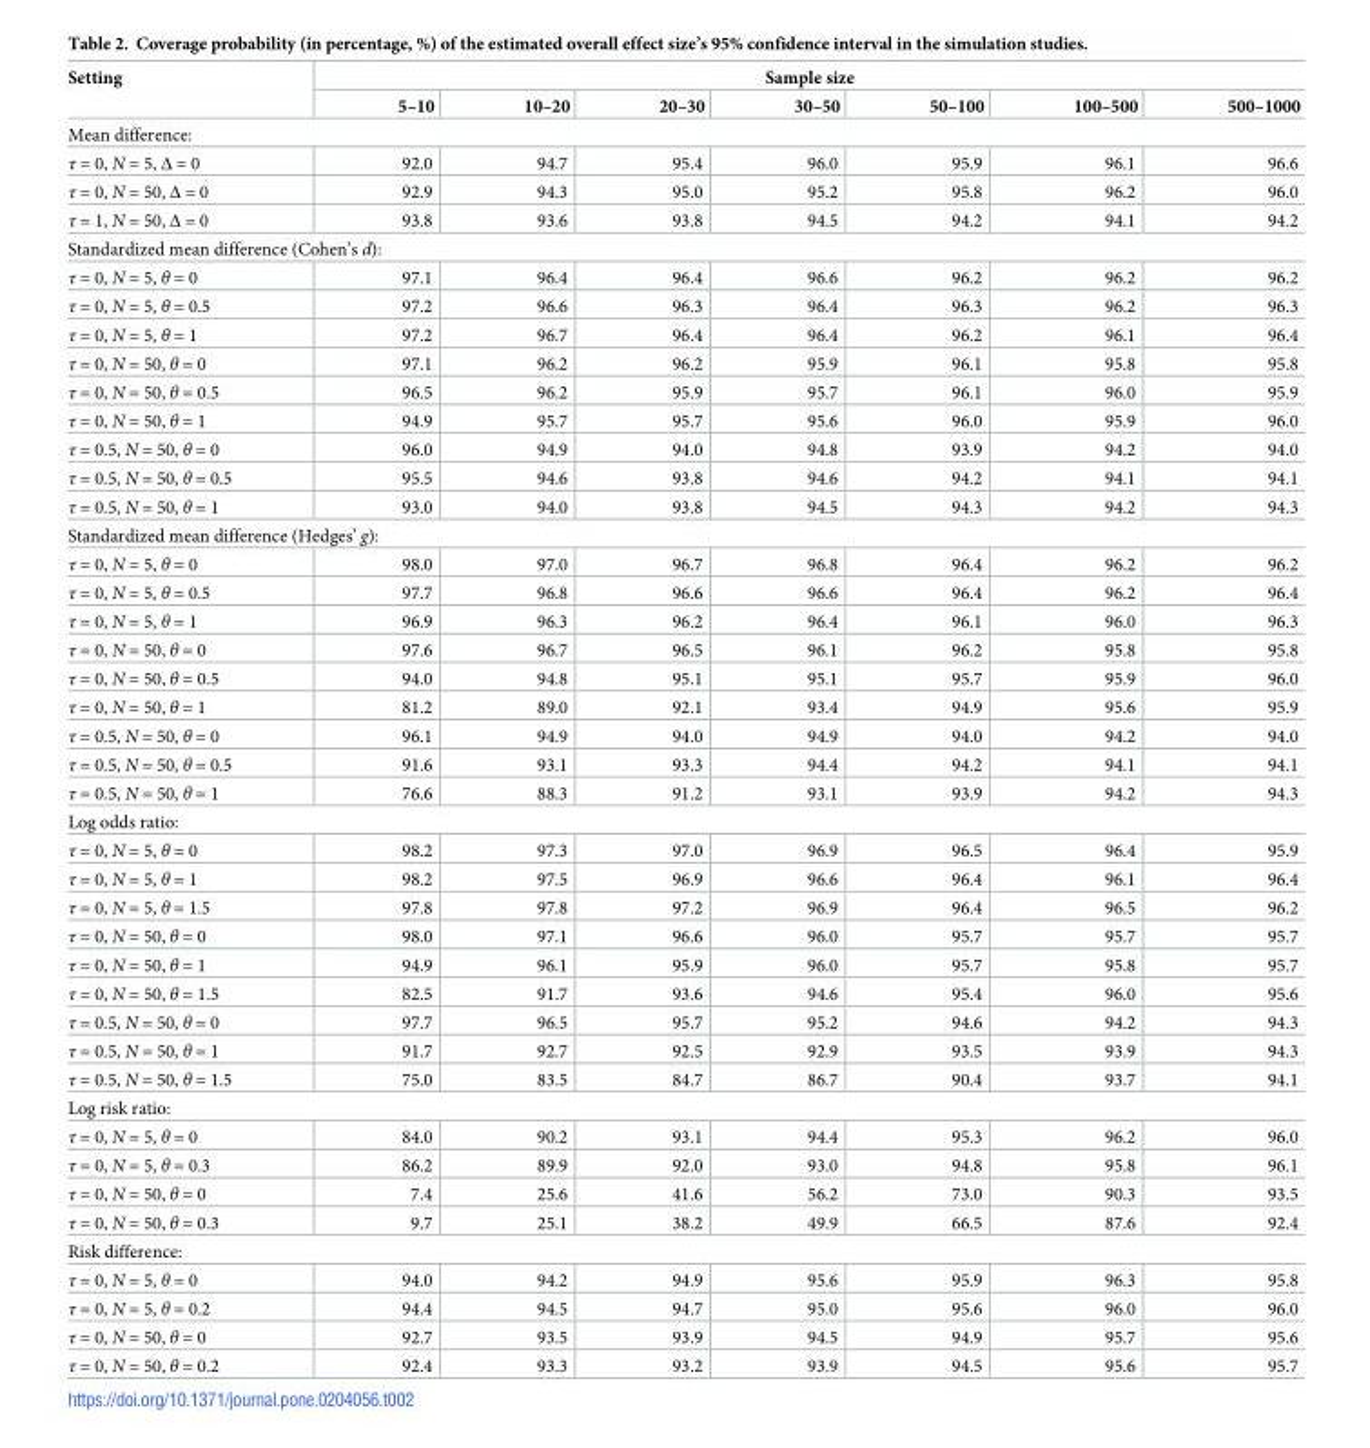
<table><thead><tr><td rowspan="2">Setting</td><td colspan="7">Sample size</td></tr><tr><td>5–10</td><td>10–20</td><td>20–30</td><td>30–50</td><td>50–100</td><td>100–500</td><td>500–1000</td></tr></thead><tbody><tr><td colspan="8">Mean difference:</td></tr><tr><td>τ = 0, N = 5, Δ = 0</td><td>92.0</td><td>94.7</td><td>95.4</td><td>96.0</td><td>95.9</td><td>96.1</td><td>96.6</td></tr><tr><td>τ = 0, N = 50, Δ = 0</td><td>92.9</td><td>94.3</td><td>95.0</td><td>95.2</td><td>95.8</td><td>96.2</td><td>96.0</td></tr><tr><td>τ = 1, N = 50, Δ = 0</td><td>93.8</td><td>93.6</td><td>93.8</td><td>94.5</td><td>94.2</td><td>94.1</td><td>94.2</td></tr><tr><td colspan="8">Standardized mean difference (Cohen’s d):</td></tr><tr><td>τ = 0, N = 5, θ = 0</td><td>97.1</td><td>96.4</td><td>96.4</td><td>96.6</td><td>96.2</td><td>96.2</td><td>96.2</td></tr><tr><td>τ = 0, N = 5, θ = 0.5</td><td>97.2</td><td>96.6</td><td>96.3</td><td>96.4</td><td>96.3</td><td>96.2</td><td>96.3</td></tr><tr><td>τ = 0, N = 5, θ = 1</td><td>97.2</td><td>96.7</td><td>96.4</td><td>96.4</td><td>96.2</td><td>96.1</td><td>96.4</td></tr><tr><td>τ = 0, N = 50, θ = 0</td><td>97.1</td><td>96.2</td><td>96.2</td><td>95.9</td><td>96.1</td><td>95.8</td><td>95.8</td></tr><tr><td>τ = 0, N = 50, θ = 0.5</td><td>96.5</td><td>96.2</td><td>95.9</td><td>95.7</td><td>96.1</td><td>96.0</td><td>95.9</td></tr><tr><td>τ = 0, N = 50, θ = 1</td><td>94.9</td><td>95.7</td><td>95.7</td><td>95.6</td><td>96.0</td><td>95.9</td><td>96.0</td></tr><tr><td>τ = 0.5, N = 50, θ = 0</td><td>96.0</td><td>94.9</td><td>94.0</td><td>94.8</td><td>93.9</td><td>94.2</td><td>94.0</td></tr><tr><td>τ = 0.5, N = 50, θ = 0.5</td><td>95.5</td><td>94.6</td><td>93.8</td><td>94.6</td><td>94.2</td><td>94.1</td><td>94.1</td></tr><tr><td>τ = 0.5, N = 50, θ = 1</td><td>93.0</td><td>94.0</td><td>93.8</td><td>94.5</td><td>94.3</td><td>94.2</td><td>94.3</td></tr><tr><td colspan="8">Standardized mean difference (Hedges’ g):</td></tr><tr><td>τ = 0, N = 5, θ = 0</td><td>98.0</td><td>97.0</td><td>96.7</td><td>96.8</td><td>96.4</td><td>96.2</td><td>96.2</td></tr><tr><td>τ = 0, N = 5, θ = 0.5</td><td>97.7</td><td>96.8</td><td>96.6</td><td>96.6</td><td>96.4</td><td>96.2</td><td>96.4</td></tr><tr><td>τ = 0, N = 5, θ = 1</td><td>96.9</td><td>96.3</td><td>96.2</td><td>96.4</td><td>96.1</td><td>96.0</td><td>96.3</td></tr><tr><td>τ = 0, N = 50, θ = 0</td><td>97.6</td><td>96.7</td><td>96.5</td><td>96.1</td><td>96.2</td><td>95.8</td><td>95.8</td></tr><tr><td>τ = 0, N = 50, θ = 0.5</td><td>94.0</td><td>94.8</td><td>95.1</td><td>95.1</td><td>95.7</td><td>95.9</td><td>96.0</td></tr><tr><td>τ = 0, N = 50, θ = 1</td><td>81.2</td><td>89.0</td><td>92.1</td><td>93.4</td><td>94.9</td><td>95.6</td><td>95.9</td></tr><tr><td>τ = 0.5, N = 50, θ = 0</td><td>96.1</td><td>94.9</td><td>94.0</td><td>94.9</td><td>94.0</td><td>94.2</td><td>94.0</td></tr><tr><td>τ = 0.5, N = 50, θ = 0.5</td><td>91.6</td><td>93.1</td><td>93.3</td><td>94.4</td><td>94.2</td><td>94.1</td><td>94.1</td></tr><tr><td>τ = 0.5, N = 50, θ = 1</td><td>76.6</td><td>88.3</td><td>91.2</td><td>93.1</td><td>93.9</td><td>94.2</td><td>94.3</td></tr><tr><td colspan="8">Log odds ratio:</td></tr><tr><td>τ = 0, N = 5, θ = 0</td><td>98.2</td><td>97.3</td><td>97.0</td><td>96.9</td><td>96.5</td><td>96.4</td><td>95.9</td></tr><tr><td>τ = 0, N = 5, θ = 1</td><td>98.2</td><td>97.5</td><td>96.9</td><td>96.6</td><td>96.4</td><td>96.1</td><td>96.4</td></tr><tr><td>τ = 0, N = 5, θ = 1.5</td><td>97.8</td><td>97.8</td><td>97.2</td><td>96.9</td><td>96.4</td><td>96.5</td><td>96.2</td></tr><tr><td>τ = 0, N = 50, θ = 0</td><td>98.0</td><td>97.1</td><td>96.6</td><td>96.0</td><td>95.7</td><td>95.7</td><td>95.7</td></tr><tr><td>τ = 0, N = 50, θ = 1</td><td>94.9</td><td>96.1</td><td>95.9</td><td>96.0</td><td>95.7</td><td>95.8</td><td>95.7</td></tr><tr><td>τ = 0, N = 50, θ = 1.5</td><td>82.5</td><td>91.7</td><td>93.6</td><td>94.6</td><td>95.4</td><td>96.0</td><td>95.6</td></tr><tr><td>τ = 0.5, N = 50, θ = 0</td><td>97.7</td><td>96.5</td><td>95.7</td><td>95.2</td><td>94.6</td><td>94.2</td><td>94.3</td></tr><tr><td>τ = 0.5, N = 50, θ = 1</td><td>91.7</td><td>92.7</td><td>92.5</td><td>92.9</td><td>93.5</td><td>93.9</td><td>94.3</td></tr><tr><td>τ = 0.5, N = 50, θ = 1.5</td><td>75.0</td><td>83.5</td><td>84.7</td><td>86.7</td><td>90.4</td><td>93.7</td><td>94.1</td></tr><tr><td colspan="8">Log risk ratio:</td></tr><tr><td>τ = 0, N = 5, θ = 0</td><td>84.0</td><td>90.2</td><td>93.1</td><td>94.4</td><td>95.3</td><td>96.2</td><td>96.0</td></tr><tr><td>τ = 0, N = 5, θ = 0.3</td><td>86.2</td><td>89.9</td><td>92.0</td><td>93.0</td><td>94.8</td><td>95.8</td><td>96.1</td></tr><tr><td>τ = 0, N = 50, θ = 0</td><td>7.4</td><td>25.6</td><td>41.6</td><td>56.2</td><td>73.0</td><td>90.3</td><td>93.5</td></tr><tr><td>τ = 0, N = 50, θ = 0.3</td><td>9.7</td><td>25.1</td><td>38.2</td><td>49.9</td><td>66.5</td><td>87.6</td><td>92.4</td></tr><tr><td colspan="8">Risk difference:</td></tr><tr><td>τ = 0, N = 5, θ = 0</td><td>94.0</td><td>94.2</td><td>94.9</td><td>95.6</td><td>95.9</td><td>96.3</td><td>95.8</td></tr><tr><td>τ = 0, N = 5, θ = 0.2</td><td>94.4</td><td>94.5</td><td>94.7</td><td>95.0</td><td>95.6</td><td>96.0</td><td>96.0</td></tr><tr><td>τ = 0, N = 50, θ = 0</td><td>92.7</td><td>93.5</td><td>93.9</td><td>94.5</td><td>94.9</td><td>95.7</td><td>95.6</td></tr><tr><td>τ = 0, N = 50, θ = 0.2</td><td>92.4</td><td>93.3</td><td>93.2</td><td>93.9</td><td>94.5</td><td>95.6</td><td>95.7</td></tr></tbody></table>